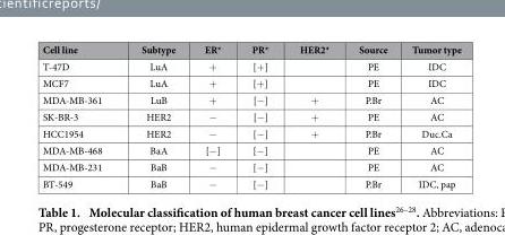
<table><thead><tr><td>Cell line</td><td>Subtype</td><td>ER*</td><td>PR*</td><td>HER2*</td><td>Source</td><td>Tumor type</td></tr></thead><tbody><tr><td>T-47D</td><td>LuA</td><td>+</td><td>[+ ]</td><td></td><td>PE</td><td>IDC</td></tr><tr><td>MCF7</td><td>LuA</td><td>+</td><td>[+ ]</td><td></td><td>PE</td><td>IDC</td></tr><tr><td>MDA-MB-361</td><td>LuB</td><td>+</td><td>[− ]</td><td>+</td><td>P.Br</td><td>AC</td></tr><tr><td>SK-BR-3</td><td>HER2</td><td>−</td><td>[− ]</td><td>+</td><td>PE</td><td>AC</td></tr><tr><td>HCC1954</td><td>HER2</td><td>−</td><td>[− ]</td><td>+</td><td>P.Br</td><td>Duc.Ca</td></tr><tr><td>MDA-MB-468</td><td>BaA</td><td>[− ]</td><td>[− ]</td><td></td><td>PE</td><td>AC</td></tr><tr><td>MDA-MB-231</td><td>BaB</td><td>−</td><td>[− ]</td><td></td><td>PE</td><td>AC</td></tr><tr><td>BT-549</td><td>BaB</td><td>−</td><td>[− ]</td><td></td><td>P.Br</td><td>IDC, pap</td></tr></tbody></table>